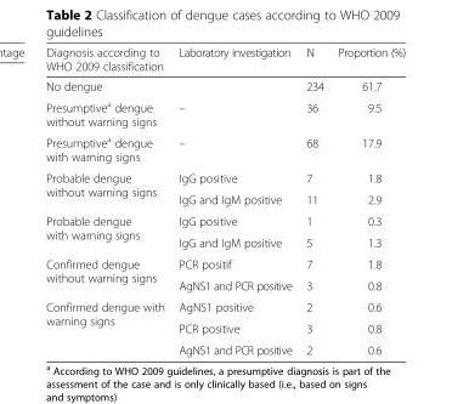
<table><thead><tr><td>Diagnosis according to WHO 2009 classification</td><td>Laboratory investigation</td><td>N</td><td>Proportion (%)</td></tr></thead><tbody><tr><td>No dengue</td><td></td><td>234</td><td>61.7</td></tr><tr><td>Presumptive<sup>a</sup> dengue without warning signs</td><td>–</td><td>36</td><td>9.5</td></tr><tr><td>Presumptive<sup>a</sup> dengue with warning signs</td><td>–</td><td>68</td><td>17.9</td></tr><tr><td rowspan="2">Probable dengue without warning signs</td><td>IgG positive</td><td>7</td><td>1.8</td></tr><tr><td>IgG and IgM positive</td><td>11</td><td>2.9</td></tr><tr><td rowspan="2">Probable dengue with warning signs</td><td>IgG positive</td><td>1</td><td>0.3</td></tr><tr><td>IgG and IgM positive</td><td>5</td><td>1.3</td></tr><tr><td rowspan="2">Confirmed dengue without warning signs</td><td>PCR positif</td><td>7</td><td>1.8</td></tr><tr><td>AgNS1 and PCR positive</td><td>3</td><td>0.8</td></tr><tr><td rowspan="3">Confirmed dengue with warning signs</td><td>AgNS1 positive</td><td>2</td><td>0.6</td></tr><tr><td>PCR positive</td><td>3</td><td>0.8</td></tr><tr><td>AgNS1 and PCR positive</td><td>2</td><td>0.6</td></tr></tbody></table>